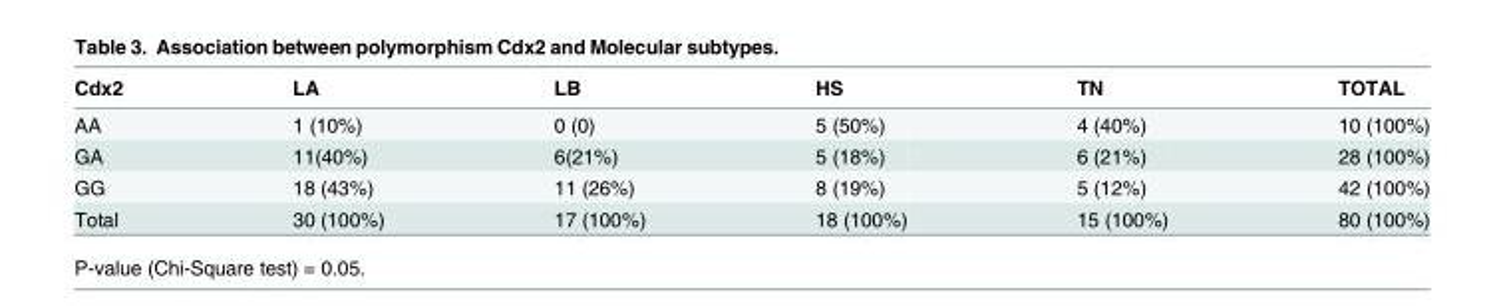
<table><thead><tr><td>Cdx2</td><td>LA</td><td>LB</td><td>HS</td><td>TN</td><td>TOTAL</td></tr></thead><tbody><tr><td>AA</td><td>1 (10%)</td><td>0 (0)</td><td>5 (50%)</td><td>4 (40%)</td><td>10 (100%)</td></tr><tr><td>GA</td><td>11(40%)</td><td>6(21%)</td><td>5 (18%)</td><td>6 (21%)</td><td>28 (100%)</td></tr><tr><td>GG</td><td>18 (43%)</td><td>11 (26%)</td><td>8 (19%)</td><td>5 (12%)</td><td>42 (100%)</td></tr><tr><td>Total</td><td>30 (100%)</td><td>17 (100%)</td><td>18 (100%)</td><td>15 (100%)</td><td>80 (100%)</td></tr></tbody></table>